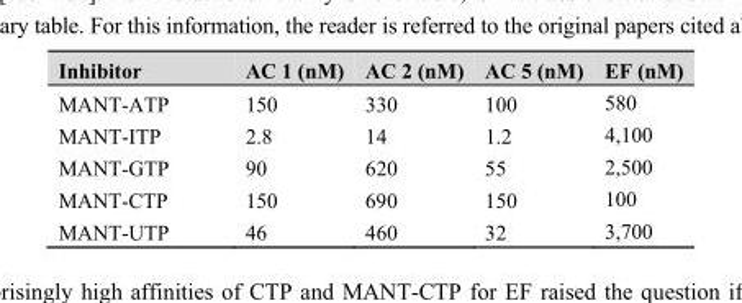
<table><thead><tr><td>Inhibitor</td><td>AC 1 (nM)</td><td>AC 2 (nM)</td><td>AC 5 (nM)</td><td>EF (nM)</td></tr></thead><tbody><tr><td>MANT-ATP</td><td>150</td><td>330</td><td>100</td><td>580</td></tr><tr><td>MANT-ITP</td><td>2.8</td><td>14</td><td>1.2</td><td>4,100</td></tr><tr><td>MANT-GTP</td><td>90</td><td>620</td><td>55</td><td>2,500</td></tr><tr><td>MANT-CTP</td><td>150</td><td>690</td><td>150</td><td>100</td></tr><tr><td>MANT-UTP</td><td>46</td><td>460</td><td>32</td><td>3,700</td></tr></tbody></table>